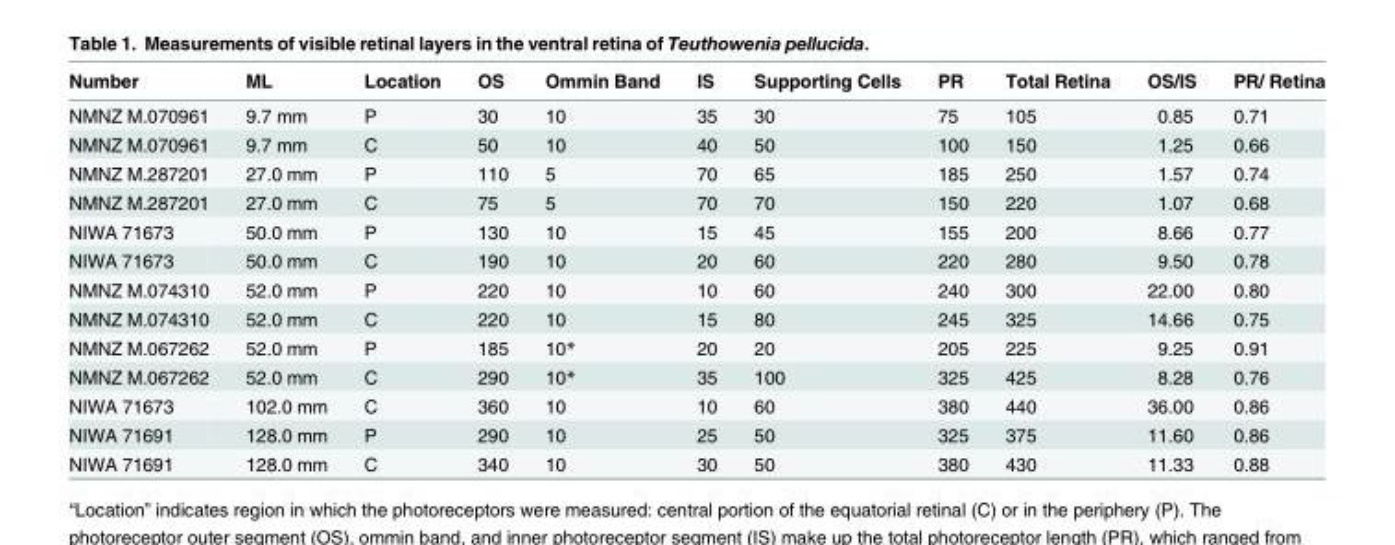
<table><thead><tr><td>Number</td><td>ML</td><td>Location</td><td>OS</td><td>Ommin Band</td><td>IS</td><td>Supporting Cells</td><td>PR</td><td>Total Retina</td><td>OS/IS</td><td>PR/ Retina</td></tr></thead><tbody><tr><td>NMNZ M.070961</td><td>9.7 mm</td><td>P</td><td>30</td><td>10</td><td>35</td><td>30</td><td>75</td><td>105</td><td>0.85</td><td>0.71</td></tr><tr><td>NMNZ M.070961</td><td>9.7 mm</td><td>C</td><td>50</td><td>10</td><td>40</td><td>50</td><td>100</td><td>150</td><td>1.25</td><td>0.66</td></tr><tr><td>NMNZ M.287201</td><td>27.0 mm</td><td>P</td><td>110</td><td>5</td><td>70</td><td>65</td><td>185</td><td>250</td><td>1.57</td><td>0.74</td></tr><tr><td>NMNZ M.287201</td><td>27.0 mm</td><td>C</td><td>75</td><td>5</td><td>70</td><td>70</td><td>150</td><td>220</td><td>1.07</td><td>0.68</td></tr><tr><td>NIWA 71673</td><td>50.0 mm</td><td>P</td><td>130</td><td>10</td><td>15</td><td>45</td><td>155</td><td>200</td><td>8.66</td><td>0.77</td></tr><tr><td>NIWA 71673</td><td>50.0 mm</td><td>C</td><td>190</td><td>10</td><td>20</td><td>60</td><td>220</td><td>280</td><td>9.50</td><td>0.78</td></tr><tr><td>NMNZ M.074310</td><td>52.0 mm</td><td>P</td><td>220</td><td>10</td><td>10</td><td>60</td><td>240</td><td>300</td><td>22.00</td><td>0.80</td></tr><tr><td>NMNZ M.074310</td><td>52.0 mm</td><td>C</td><td>220</td><td>10</td><td>15</td><td>80</td><td>245</td><td>325</td><td>14.66</td><td>0.75</td></tr><tr><td>NMNZ M.067262</td><td>52.0 mm</td><td>P</td><td>185</td><td>10*</td><td>20</td><td>20</td><td>205</td><td>225</td><td>9.25</td><td>0.91</td></tr><tr><td>NMNZ M.067262</td><td>52.0 mm</td><td>C</td><td>290</td><td>10*</td><td>35</td><td>100</td><td>325</td><td>425</td><td>8.28</td><td>0.76</td></tr><tr><td>NIWA 71673</td><td>102.0 mm</td><td>C</td><td>360</td><td>10</td><td>10</td><td>60</td><td>380</td><td>440</td><td>36.00</td><td>0.86</td></tr><tr><td>NIWA 71691</td><td>128.0 mm</td><td>P</td><td>290</td><td>10</td><td>25</td><td>50</td><td>325</td><td>375</td><td>11.60</td><td>0.86</td></tr><tr><td>NIWA 71691</td><td>128.0 mm</td><td>C</td><td>340</td><td>10</td><td>30</td><td>50</td><td>380</td><td>430</td><td>11.33</td><td>0.88</td></tr></tbody></table>